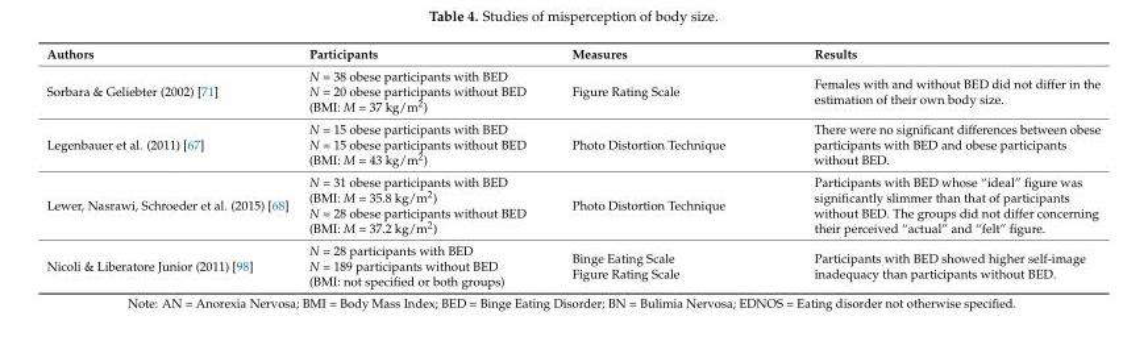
<table><thead><tr><td>Authors</td><td>Participants</td><td>Measures</td><td>Results</td></tr></thead><tbody><tr><td>Sorbara &amp; Geliebter (2002) [71]</td><td>N = 38 obese participants with BED N = 20 obese participants without BED (BMI: M = 37 kg/m<sup>2</sup>)</td><td>Figure Rating Scale</td><td>Females with and without BED did not differ in the estimation of their own body size.</td></tr><tr><td>Legenbauer et al. (2011) [67]</td><td>N = 15 obese participants with BED N = 15 obese participants without BED (BMI: M = 43 kg/m<sup>2</sup>)</td><td>Photo Distortion Technique</td><td>There were no significant differences between obese participants with BED and obese participants without BED.</td></tr><tr><td>Lewer, Nasrawi, Schroeder et al. (2015) [68]</td><td>N = 31 obese participants with BED (BMI: M = 35.8 kg/m<sup>2</sup>) N = 28 obese participants without BED (BMI: M = 37.2 kg/m<sup>2</sup>)</td><td>Photo Distortion Technique</td><td>Participants with BED whose “ideal” figure was significantly slimmer than that of participants without BED. The groups did not differ concerning their perceived “actual” and “felt” figure.</td></tr><tr><td>Nicoli &amp; Liberatore Junior (2011) [98]</td><td>N = 28 participants with BED N = 189 participants without BED (BMI: not specified or both groups)</td><td>Binge Eating Scale Figure Rating Scale</td><td>Participants with BED showed higher self-image inadequacy than participants without BED.</td></tr></tbody></table>